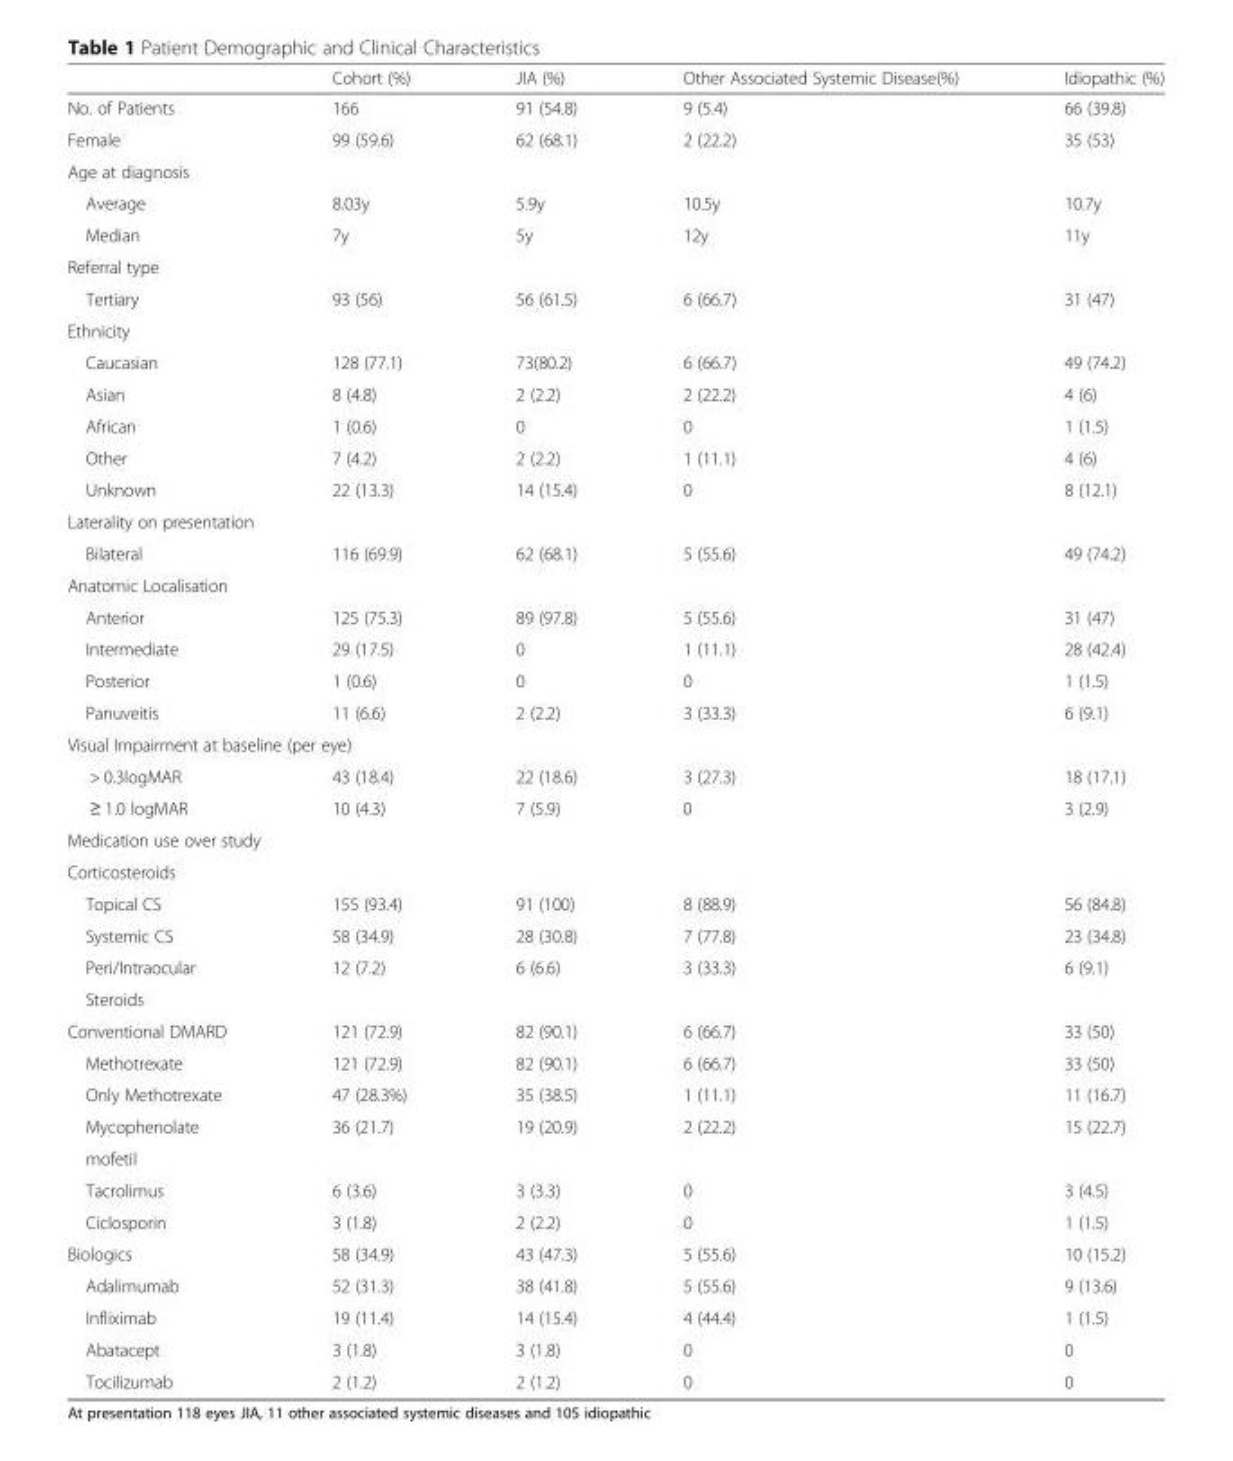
<table><thead><tr><td></td><td>Cohort (%)</td><td>JIA (%)</td><td>Other Associated Systemic Disease(%)</td><td>Idiopathic (%)</td></tr></thead><tbody><tr><td>No. of Patients</td><td>166</td><td>91 (54.8)</td><td>9 (5.4)</td><td>66 (39.8)</td></tr><tr><td>Female</td><td>99 (59.6)</td><td>62 (68.1)</td><td>2 (22.2)</td><td>35 (53)</td></tr><tr><td colspan="5">Age at diagnosis</td></tr><tr><td>Average</td><td>8.03y</td><td>5.9y</td><td>10.5y</td><td>10.7y</td></tr><tr><td>Median</td><td>7y</td><td>5y</td><td>12y</td><td>11y</td></tr><tr><td colspan="5">Referral type</td></tr><tr><td>Tertiary</td><td>93 (56)</td><td>56 (61.5)</td><td>6 (66.7)</td><td>31 (47)</td></tr><tr><td colspan="5">Ethnicity</td></tr><tr><td>Caucasian</td><td>128 (77.1)</td><td>73(80.2)</td><td>6 (66.7)</td><td>49 (74.2)</td></tr><tr><td>Asian</td><td>8 (4.8)</td><td>2 (2.2)</td><td>2 (22.2)</td><td>4 (6)</td></tr><tr><td>African</td><td>1 (0.6)</td><td>0</td><td>0</td><td>1 (1.5)</td></tr><tr><td>Other</td><td>7 (4.2)</td><td>2 (2.2)</td><td>1 (11.1)</td><td>4 (6)</td></tr><tr><td>Unknown</td><td>22 (13.3)</td><td>14 (15.4)</td><td>0</td><td>8 (12.1)</td></tr><tr><td colspan="5">Laterality on presentation</td></tr><tr><td>Bilateral</td><td>116 (69.9)</td><td>62 (68.1)</td><td>5 (55.6)</td><td>49 (74.2)</td></tr><tr><td colspan="5">Anatomic Localisation</td></tr><tr><td>Anterior</td><td>125 (75.3)</td><td>89 (97.8)</td><td>5 (55.6)</td><td>31 (47)</td></tr><tr><td>Intermediate</td><td>29 (17.5)</td><td>0</td><td>1 (11.1)</td><td>28 (42.4)</td></tr><tr><td>Posterior</td><td>1 (0.6)</td><td>0</td><td>0</td><td>1 (1.5)</td></tr><tr><td>Panuveitis</td><td>11 (6.6)</td><td>2 (2.2)</td><td>3 (33.3)</td><td>6 (9.1)</td></tr><tr><td colspan="5">Visual Impairment at baseline (per eye)</td></tr><tr><td>&gt; 0.3logMAR</td><td>43 (18.4)</td><td>22 (18.6)</td><td>3 (27.3)</td><td>18 (17.1)</td></tr><tr><td>≥ 1.0 logMAR</td><td>10 (4.3)</td><td>7 (5.9)</td><td>0</td><td>3 (2.9)</td></tr><tr><td colspan="5">Medication use over study</td></tr><tr><td colspan="5">Corticosteroids</td></tr><tr><td>Topical CS</td><td>155 (93.4)</td><td>91 (100)</td><td>8 (88.9)</td><td>56 (84.8)</td></tr><tr><td>Systemic CS</td><td>58 (34.9)</td><td>28 (30.8)</td><td>7 (77.8)</td><td>23 (34.8)</td></tr><tr><td>Peri/Intraocular</td><td>12 (7.2)</td><td>6 (6.6)</td><td>3 (33.3)</td><td>6 (9.1)</td></tr><tr><td colspan="5">Steroids</td></tr><tr><td>Conventional DMARD</td><td>121 (72.9)</td><td>82 (90.1)</td><td>6 (66.7)</td><td>33 (50)</td></tr><tr><td>Methotrexate</td><td>121 (72.9)</td><td>82 (90.1)</td><td>6 (66.7)</td><td>33 (50)</td></tr><tr><td>Only Methotrexate</td><td>47 (28.3%)</td><td>35 (38.5)</td><td>1 (11.1)</td><td>11 (16.7)</td></tr><tr><td>Mycophenolate</td><td>36 (21.7)</td><td>19 (20.9)</td><td>2 (22.2)</td><td>15 (22.7)</td></tr><tr><td colspan="5">mofetil</td></tr><tr><td>Tacrolimus</td><td>6 (3.6)</td><td>3 (3.3)</td><td>0</td><td>3 (4.5)</td></tr><tr><td>Ciclosporin</td><td>3 (1.8)</td><td>2 (2.2)</td><td>0</td><td>1 (1.5)</td></tr><tr><td>Biologics</td><td>58 (34.9)</td><td>43 (47.3)</td><td>5 (55.6)</td><td>10 (15.2)</td></tr><tr><td>Adalimumab</td><td>52 (31.3)</td><td>38 (41.8)</td><td>5 (55.6)</td><td>9 (13.6)</td></tr><tr><td>Infliximab</td><td>19 (11.4)</td><td>14 (15.4)</td><td>4 (44.4)</td><td>1 (1.5)</td></tr><tr><td>Abatacept</td><td>3 (1.8)</td><td>3 (1.8)</td><td>0</td><td>0</td></tr><tr><td>Tocilizumab</td><td>2 (1.2)</td><td>2 (1.2)</td><td>0</td><td>0</td></tr></tbody></table>